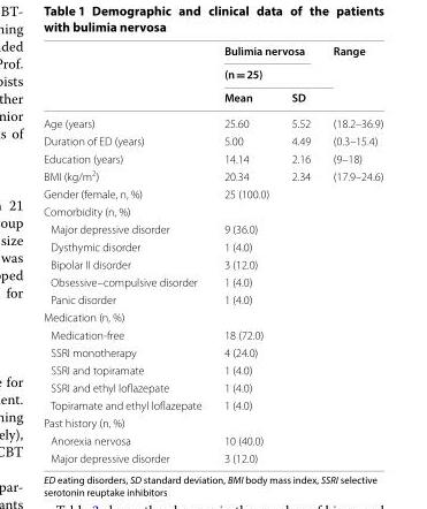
<table><thead><tr><td rowspan="3"></td><td rowspan="2" colspan="2">Bulimia nervosa (n = 25)</td><td rowspan="3">Range</td></tr><tr></tr><tr><td>Mean</td><td>SD</td></tr></thead><tbody><tr><td>Age (years)</td><td>25.60</td><td>5.52</td><td>(18.2–36.9)</td></tr><tr><td>Duration of ED (years)</td><td>5.00</td><td>4.49</td><td>(0.3–15.4)</td></tr><tr><td>Education (years)</td><td>14.14</td><td>2.16</td><td>(9–18)</td></tr><tr><td>BMI (kg/m<sup>2</sup>)</td><td>20.34</td><td>2.34</td><td>(17.9–24.6)</td></tr><tr><td>Gender (female, n, %)</td><td>25 (100.0)</td><td></td><td></td></tr><tr><td colspan="4">Comorbidity (n, %)</td></tr><tr><td>Major depressive disorder</td><td>9 (36.0)</td><td></td><td></td></tr><tr><td>Dysthymic disorder</td><td>1 (4.0)</td><td></td><td></td></tr><tr><td>Bipolar II disorder</td><td>3 (12.0)</td><td></td><td></td></tr><tr><td>Obsessive–compulsive disorder</td><td>1 (4.0)</td><td></td><td></td></tr><tr><td>Panic disorder</td><td>1 (4.0)</td><td></td><td></td></tr><tr><td colspan="4">Medication (n, %)</td></tr><tr><td>Medication-free</td><td>18 (72.0)</td><td></td><td></td></tr><tr><td>SSRI monotherapy</td><td>4 (24.0)</td><td></td><td></td></tr><tr><td>SSRI and topiramate</td><td>1 (4.0)</td><td></td><td></td></tr><tr><td>SSRI and ethyl loflazepate</td><td>1 (4.0)</td><td></td><td></td></tr><tr><td>Topiramate and ethyl loflazepate</td><td>1 (4.0)</td><td></td><td></td></tr><tr><td colspan="4">Past history (n, %)</td></tr><tr><td>Anorexia nervosa</td><td>10 (40.0)</td><td></td><td></td></tr><tr><td>Major depressive disorder</td><td>3 (12.0)</td><td></td><td></td></tr></tbody></table>